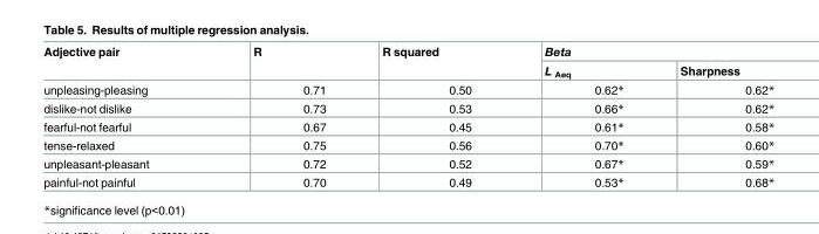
<table><thead><tr><td rowspan="2">Adjective pair</td><td rowspan="2">R</td><td rowspan="2">R squared</td><td colspan="2">Beta</td></tr><tr><td>L <sub>Aeq</sub></td><td>Sharpness</td></tr></thead><tbody><tr><td>unpleasing-pleasing</td><td>0.71</td><td>0.50</td><td>0.62*</td><td>0.62*</td></tr><tr><td>dislike-not dislike</td><td>0.73</td><td>0.53</td><td>0.66*</td><td>0.62*</td></tr><tr><td>fearful-not fearful</td><td>0.67</td><td>0.45</td><td>0.61*</td><td>0.58*</td></tr><tr><td>tense-relaxed</td><td>0.75</td><td>0.56</td><td>0.70*</td><td>0.60*</td></tr><tr><td>unpleasant-pleasant</td><td>0.72</td><td>0.52</td><td>0.67*</td><td>0.59*</td></tr><tr><td>painful-not painful</td><td>0.70</td><td>0.49</td><td>0.53*</td><td>0.68*</td></tr></tbody></table>